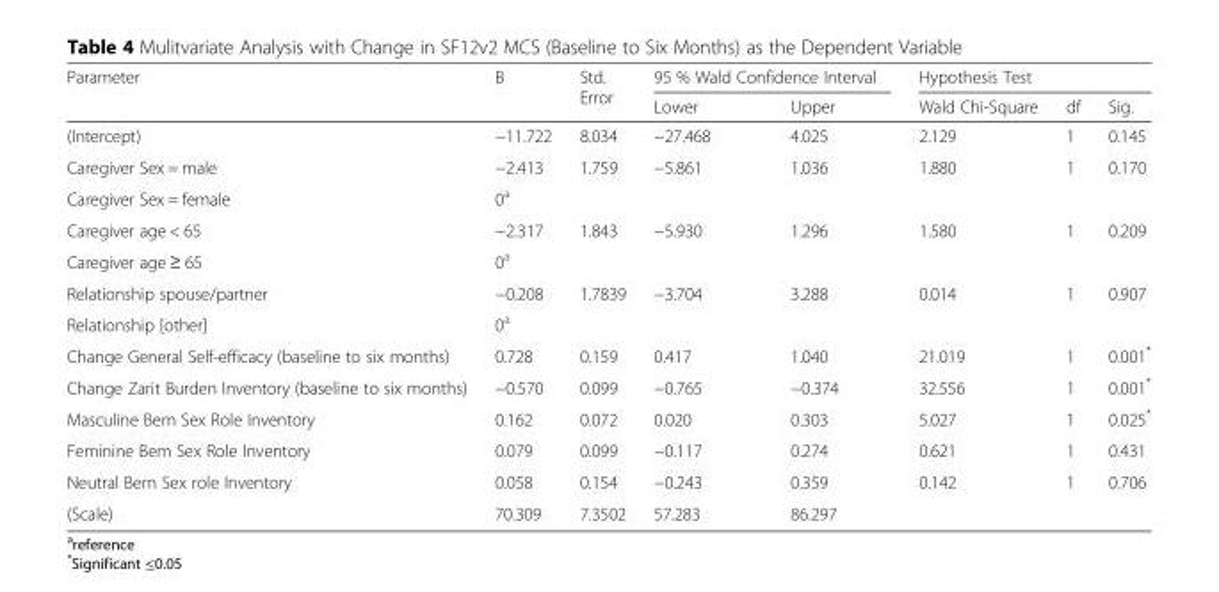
<table><thead><tr><td rowspan="2">Parameter</td><td rowspan="2">B</td><td rowspan="2">Std. Error</td><td colspan="2">95 % Wald Confidence Interval</td><td colspan="3">Hypothesis Test</td></tr><tr><td>Lower</td><td>Upper</td><td>Wald Chi-Square</td><td>df</td><td>Sig.</td></tr></thead><tbody><tr><td>(Intercept)</td><td>−11.722</td><td>8.034</td><td>−27.468</td><td>4.025</td><td>2.129</td><td>1</td><td>0.145</td></tr><tr><td>Caregiver Sex = male</td><td>−2.413</td><td>1.759</td><td>−5.861</td><td>1.036</td><td>1.880</td><td>1</td><td>0.170</td></tr><tr><td>Caregiver Sex = female</td><td>0<sup>a</sup></td><td></td><td></td><td></td><td></td><td></td><td></td></tr><tr><td>Caregiver age &lt; 65</td><td>−2.317</td><td>1.843</td><td>−5.930</td><td>1.296</td><td>1.580</td><td>1</td><td>0.209</td></tr><tr><td>Caregiver age ≥ 65</td><td>0<sup>a</sup></td><td></td><td></td><td></td><td></td><td></td><td></td></tr><tr><td>Relationship spouse/partner</td><td>−0.208</td><td>1.7839</td><td>−3.704</td><td>3.288</td><td>0.014</td><td>1</td><td>0.907</td></tr><tr><td>Relationship [other]</td><td>0<sup>a</sup></td><td></td><td></td><td></td><td></td><td></td><td></td></tr><tr><td>Change General Self-efficacy (baseline to six months)</td><td>0.728</td><td>0.159</td><td>0.417</td><td>1.040</td><td>21.019</td><td>1</td><td>0.001*</td></tr><tr><td>Change Zarit Burden Inventory (baseline to six months)</td><td>−0.570</td><td>0.099</td><td>−0.765</td><td>−0.374</td><td>32.556</td><td>1</td><td>0.001*</td></tr><tr><td>Masculine Bem Sex Role Inventory</td><td>0.162</td><td>0.072</td><td>0.020</td><td>0.303</td><td>5.027</td><td>1</td><td>0.025*</td></tr><tr><td>Feminine Bem Sex Role Inventory</td><td>0.079</td><td>0.099</td><td>−0.117</td><td>0.274</td><td>0.621</td><td>1</td><td>0.431</td></tr><tr><td>Neutral Bem Sex role Inventory</td><td>0.058</td><td>0.154</td><td>−0.243</td><td>0.359</td><td>0.142</td><td>1</td><td>0.706</td></tr><tr><td>(Scale)</td><td>70.309</td><td>7.3502</td><td>57.283</td><td>86.297</td><td></td><td></td><td></td></tr></tbody></table>